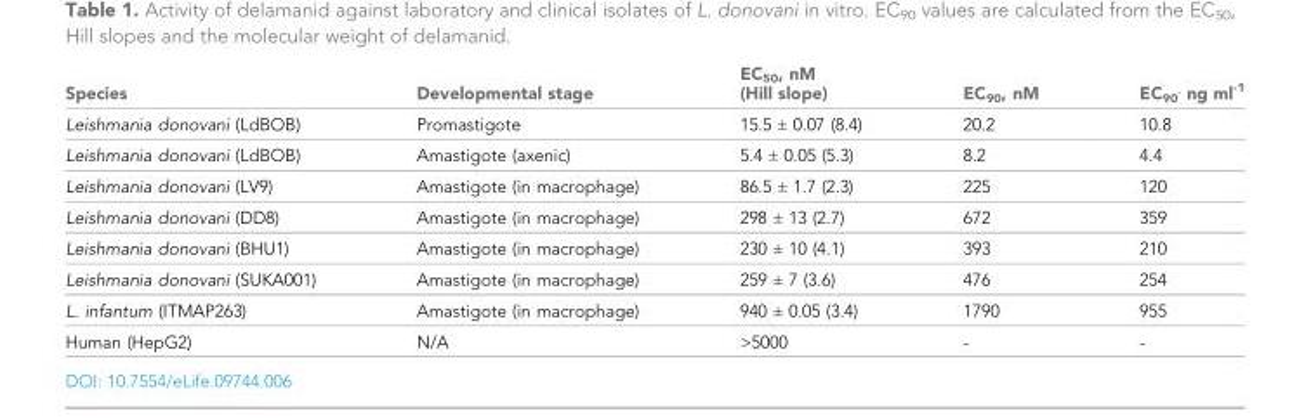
<table><thead><tr><td>Species</td><td>Developmental stage</td><td>EC<sub>50</sub>, nM (Hill slope)</td><td>EC<sub>90</sub>, nM</td><td>EC<sub>90 </sub><sup><sub>,</sub></sup> ng ml<sup>-1</sup></td></tr></thead><tbody><tr><td>Leishmania donovani (LdBOB)</td><td>Promastigote</td><td>15.5 ± 0.07 (8.4)</td><td>20.2</td><td>10.8</td></tr><tr><td>Leishmania donovani (LdBOB)</td><td>Amastigote (axenic)</td><td>5.4 ± 0.05 (5.3)</td><td>8.2</td><td>4.4</td></tr><tr><td>Leishmania donovani (LV9)</td><td>Amastigote (in macrophage)</td><td>86.5 ± 1.7 (2.3)</td><td>225</td><td>120</td></tr><tr><td>Leishmania donovani (DD8)</td><td>Amastigote (in macrophage)</td><td>298 ± 13 (2.7)</td><td>672</td><td>359</td></tr><tr><td>Leishmania donovani (BHU1)</td><td>Amastigote (in macrophage)</td><td>230 ± 10 (4.1)</td><td>393</td><td>210</td></tr><tr><td>Leishmania donovani (SUKA001)</td><td>Amastigote (in macrophage)</td><td>259 ± 7 (3.6)</td><td>476</td><td>254</td></tr><tr><td>L. infantum (ITMAP263)</td><td>Amastigote (in macrophage)</td><td>940 ± 0.05 (3.4)</td><td>1790</td><td>955</td></tr><tr><td>Human (HepG2)</td><td>N/A</td><td>&gt;5000</td><td>-</td><td>-</td></tr></tbody></table>